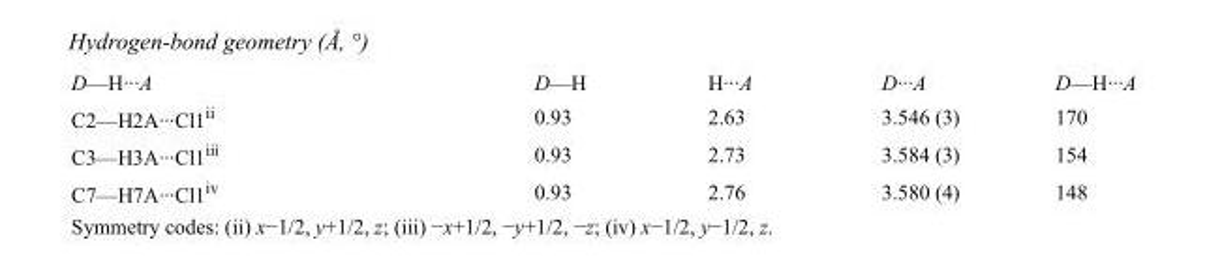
<table><tbody><tr><td>D—H···A</td><td>D—H</td><td>H···A</td><td>D···A</td><td>D—H···A</td></tr><tr><td>C2—H2A···Cl1<sup>ii</sup></td><td>0.93</td><td>2.63</td><td>3.546 (3)</td><td>170</td></tr><tr><td>C3—H3A···Cl1<sup>iii</sup></td><td>0.93</td><td>2.73</td><td>3.584 (3)</td><td>154</td></tr><tr><td>C7—H7A···Cl1<sup>iv</sup></td><td>0.93</td><td>2.76</td><td>3.580 (4)</td><td>148</td></tr></tbody></table>